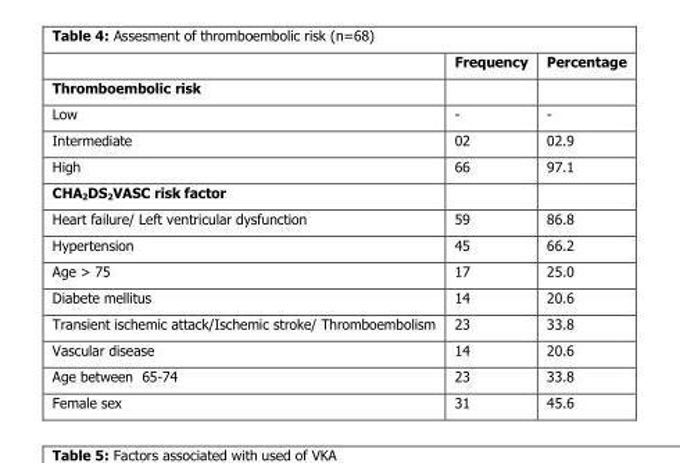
<table><thead><tr><td></td><td>Frequency</td><td>Percentage</td></tr></thead><tbody><tr><td colspan="3">Thromboembolic risk</td></tr><tr><td>Low</td><td>-</td><td>-</td></tr><tr><td>Intermediate</td><td>02</td><td>02.9</td></tr><tr><td>High</td><td>66</td><td>97.1</td></tr><tr><td colspan="3">CHA<sub>2</sub>DS<sub>2</sub>VASC risk factor</td></tr><tr><td>Heart failure/ Left ventricular dysfunction</td><td>59</td><td>86.8</td></tr><tr><td>Hypertension</td><td>45</td><td>66.2</td></tr><tr><td>Age &gt; 75</td><td>17</td><td>25.0</td></tr><tr><td>Diabete mellitus</td><td>14</td><td>20.6</td></tr><tr><td>Transient ischemic attack/Ischemic stroke/ Thromboembolism</td><td>23</td><td>33.8</td></tr><tr><td>Vascular disease</td><td>14</td><td>20.6</td></tr><tr><td>Age between 65-74</td><td>23</td><td>33.8</td></tr><tr><td>Female sex</td><td>31</td><td>45.6</td></tr></tbody></table>